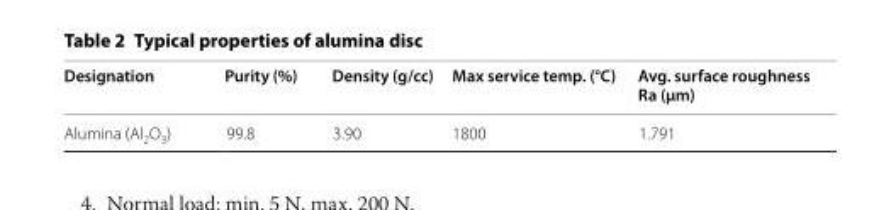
<table><thead><tr><td>Designation</td><td>Purity (%)</td><td>Density (g/cc)</td><td>Max service temp. (°C)</td><td>Avg. surface roughness Ra (μm)</td></tr></thead><tbody><tr><td>Alumina (Al<sub>2</sub>O<sub>3</sub>)</td><td>99.8</td><td>3.90</td><td>1800</td><td>1.791</td></tr></tbody></table>